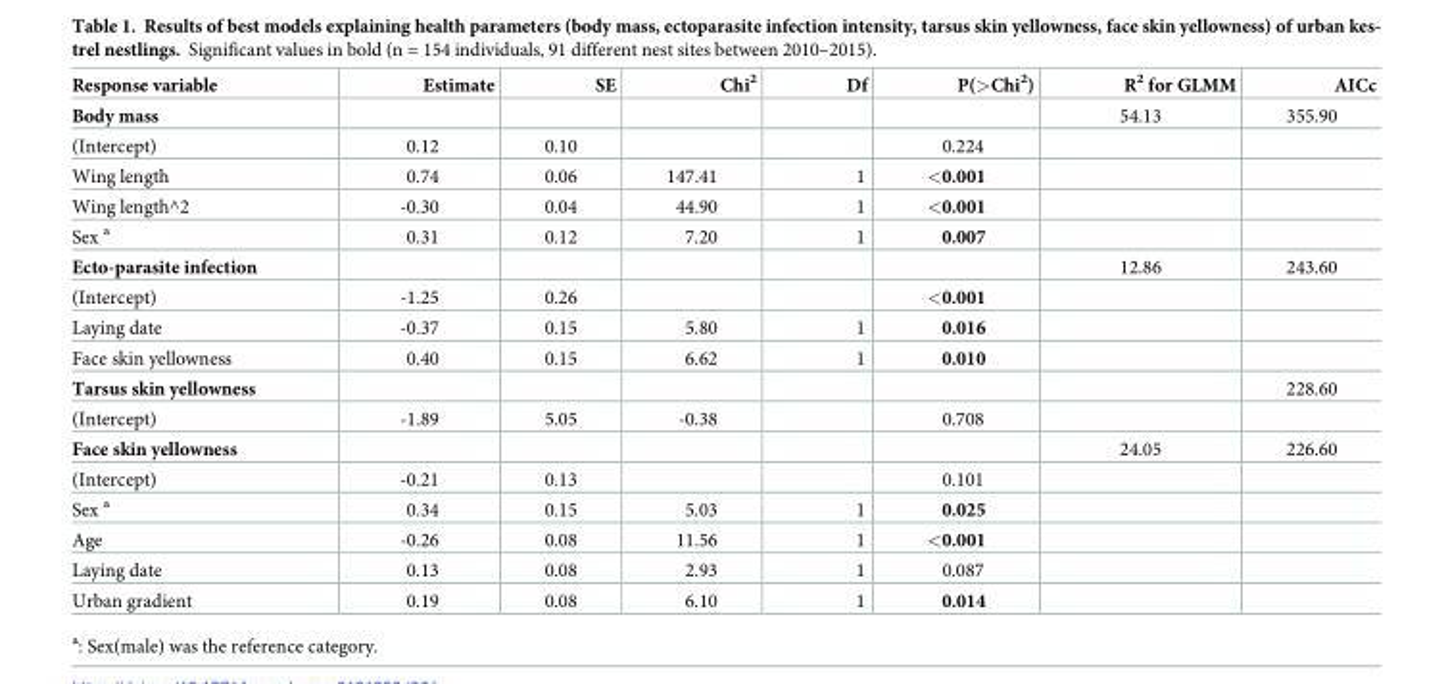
<table><thead><tr><td>Response variable</td><td>Estimate</td><td>SE</td><td>Chi<sup>2</sup></td><td>Df</td><td>P(&gt;Chi<sup>2</sup>)</td><td>R<sup>2</sup> for GLMM</td><td>AICc</td></tr></thead><tbody><tr><td>Body mass</td><td></td><td></td><td></td><td></td><td></td><td>54.13</td><td>355.90</td></tr><tr><td>(Intercept)</td><td>0.12</td><td>0.10</td><td></td><td></td><td>0.224</td><td></td><td></td></tr><tr><td>Wing length</td><td>0.74</td><td>0.06</td><td>147.41</td><td>1</td><td>&lt;0.001</td><td></td><td></td></tr><tr><td>Wing length^2</td><td>-0.30</td><td>0.04</td><td>44.90</td><td>1</td><td>&lt;0.001</td><td></td><td></td></tr><tr><td>Sex <sup>a</sup></td><td>0.31</td><td>0.12</td><td>7.20</td><td>1</td><td>0.007</td><td></td><td></td></tr><tr><td>Ecto-parasite infection</td><td></td><td></td><td></td><td></td><td></td><td>12.86</td><td>243.60</td></tr><tr><td>(Intercept)</td><td>-1.25</td><td>0.26</td><td></td><td></td><td>&lt;0.001</td><td></td><td></td></tr><tr><td>Laying date</td><td>-0.37</td><td>0.15</td><td>5.80</td><td>1</td><td>0.016</td><td></td><td></td></tr><tr><td>Face skin yellowness</td><td>0.40</td><td>0.15</td><td>6.62</td><td>1</td><td>0.010</td><td></td><td></td></tr><tr><td>Tarsus skin yellowness</td><td></td><td></td><td></td><td></td><td></td><td></td><td>228.60</td></tr><tr><td>(Intercept)</td><td>-1.89</td><td>5.05</td><td>-0.38</td><td></td><td>0.708</td><td></td><td></td></tr><tr><td>Face skin yellowness</td><td></td><td></td><td></td><td></td><td></td><td>24.05</td><td>226.60</td></tr><tr><td>(Intercept)</td><td>-0.21</td><td>0.13</td><td></td><td></td><td>0.101</td><td></td><td></td></tr><tr><td>Sex <sup>a</sup></td><td>0.34</td><td>0.15</td><td>5.03</td><td>1</td><td>0.025</td><td></td><td></td></tr><tr><td>Age</td><td>-0.26</td><td>0.08</td><td>11.56</td><td>1</td><td>&lt;0.001</td><td></td><td></td></tr><tr><td>Laying date</td><td>0.13</td><td>0.08</td><td>2.93</td><td>1</td><td>0.087</td><td></td><td></td></tr><tr><td>Urban gradient</td><td>0.19</td><td>0.08</td><td>6.10</td><td>1</td><td>0.014</td><td></td><td></td></tr></tbody></table>